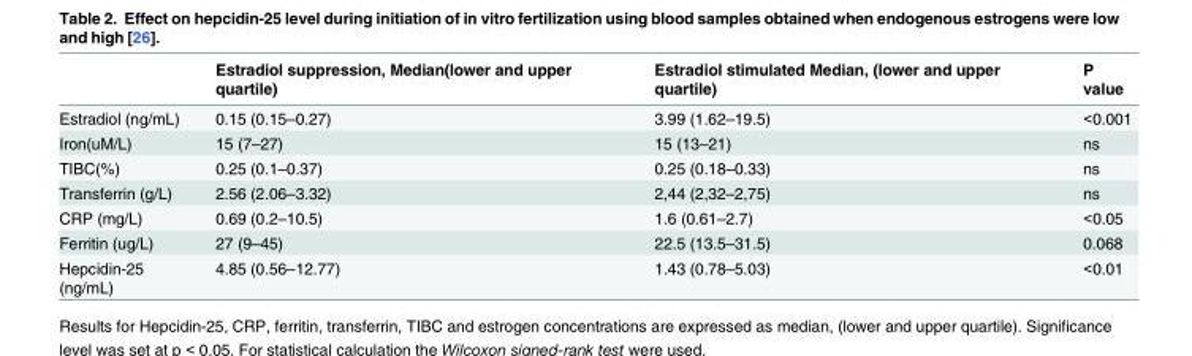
<table><thead><tr><td></td><td>Estradiol suppression, Median(lower and upper quartile)</td><td>Estradiol stimulated Median, (lower and upper quartile)</td><td>P value</td></tr></thead><tbody><tr><td>Estradiol (ng/mL)</td><td>0.15 (0.15–0.27)</td><td>3.99 (1.62–19.5)</td><td>&lt;0.001</td></tr><tr><td>Iron(uM/L)</td><td>15 (7–27)</td><td>15 (13–21)</td><td>ns</td></tr><tr><td>TIBC(%)</td><td>0.25 (0.1–0.37)</td><td>0.25 (0.18–0.33)</td><td>ns</td></tr><tr><td>Transferrin (g/L)</td><td>2.56 (2.06–3.32)</td><td>2,44 (2,32–2,75)</td><td>ns</td></tr><tr><td>CRP (mg/L)</td><td>0.69 (0.2–10.5)</td><td>1.6 (0.61–2.7)</td><td>&lt;0.05</td></tr><tr><td>Ferritin (ug/L)</td><td>27 (9–45)</td><td>22.5 (13.5–31.5)</td><td>0.068</td></tr><tr><td>Hepcidin-25 (ng/mL)</td><td>4.85 (0.56–12.77)</td><td>1.43 (0.78–5.03)</td><td>&lt;0.01</td></tr></tbody></table>